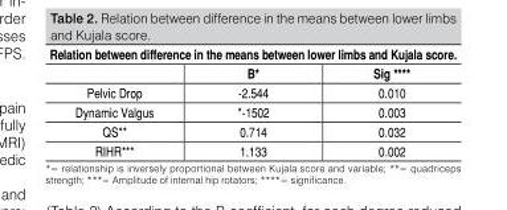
<table><thead><tr><td colspan="3">Relation between difference in the means between lower limbs and Kujala score.</td></tr><tr><td></td><td>B*</td><td>Sig ****</td></tr></thead><tbody><tr><td>Pelvic Drop</td><td>-2.544</td><td>0.010</td></tr><tr><td>Dynamic Valgus</td><td>*-1502</td><td>0.003</td></tr><tr><td>QS**</td><td>0.714</td><td>0.032</td></tr><tr><td>RIHR***</td><td>1.133</td><td>0.002</td></tr></tbody></table>